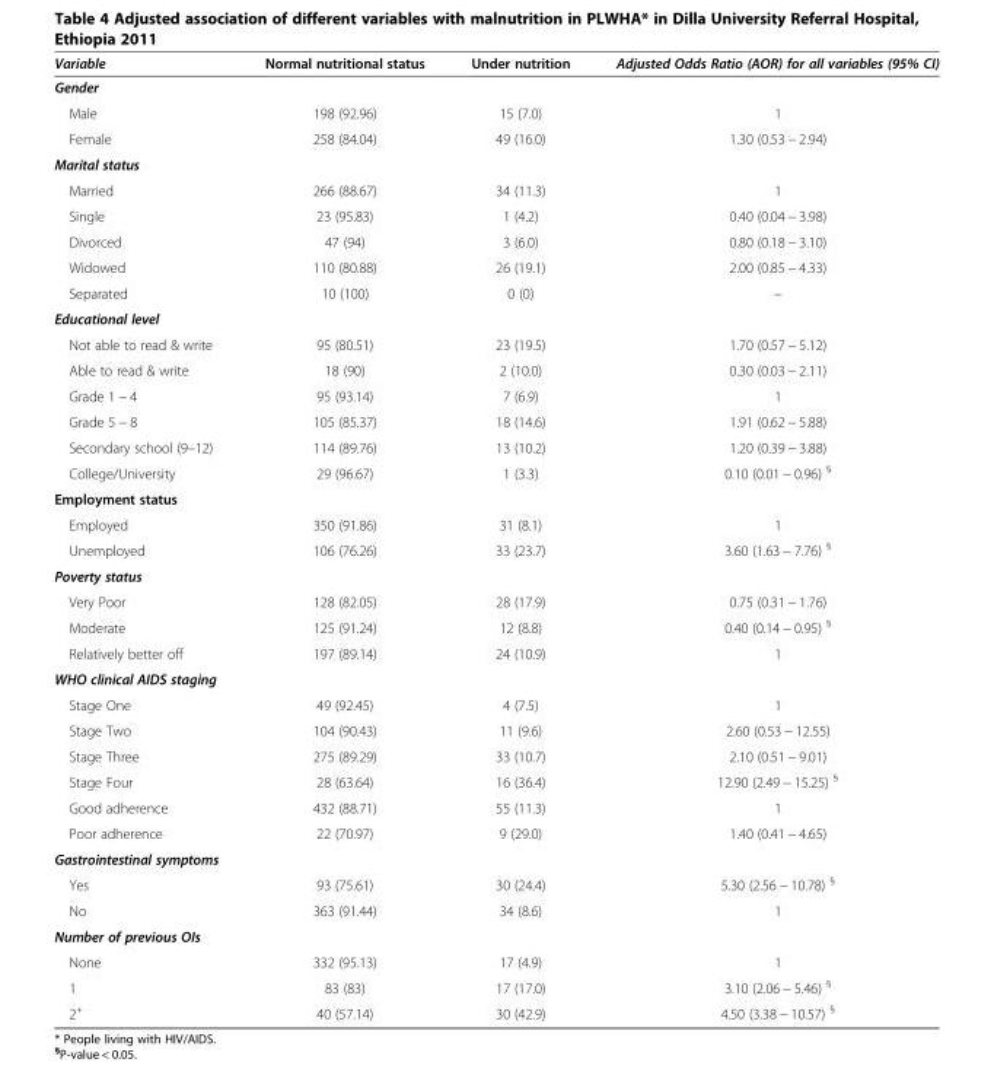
<table><thead><tr><td>Variable</td><td>Normal nutritional status</td><td>Under nutrition</td><td>Adjusted Odds Ratio (AOR) for all variables (95% CI)</td></tr></thead><tbody><tr><td colspan="4">Gender</td></tr><tr><td>Male</td><td>198 (92.96)</td><td>15 (7.0)</td><td>1</td></tr><tr><td>Female</td><td>258 (84.04)</td><td>49 (16.0)</td><td>1.30 (0.53 − 2.94)</td></tr><tr><td colspan="4">Marital status</td></tr><tr><td>Married</td><td>266 (88.67)</td><td>34 (11.3)</td><td>1</td></tr><tr><td>Single</td><td>23 (95.83)</td><td>1 (4.2)</td><td>0.40 (0.04 − 3.98)</td></tr><tr><td>Divorced</td><td>47 (94)</td><td>3 (6.0)</td><td>0.80 (0.18 − 3.10)</td></tr><tr><td>Widowed</td><td>110 (80.88)</td><td>26 (19.1)</td><td>2.00 (0.85 − 4.33)</td></tr><tr><td>Separated</td><td>10 (100)</td><td>0 (0)</td><td>−</td></tr><tr><td colspan="4">Educational level</td></tr><tr><td>Not able to read &amp; write</td><td>95 (80.51)</td><td>23 (19.5)</td><td>1.70 (0.57 − 5.12)</td></tr><tr><td>Able to read &amp; write</td><td>18 (90)</td><td>2 (10.0)</td><td>0.30 (0.03 − 2.11)</td></tr><tr><td>Grade 1 − 4</td><td>95 (93.14)</td><td>7 (6.9)</td><td>1</td></tr><tr><td>Grade 5 − 8</td><td>105 (85.37)</td><td>18 (14.6)</td><td>1.91 (0.62 − 5.88)</td></tr><tr><td>Secondary school (9–12)</td><td>114 (89.76)</td><td>13 (10.2)</td><td>1.20 (0.39 − 3.88)</td></tr><tr><td>College/University</td><td>29 (96.67)</td><td>1 (3.3)</td><td>0.10 (0.01 − 0.96) <sup>§</sup></td></tr><tr><td colspan="4">Employment status</td></tr><tr><td>Employed</td><td>350 (91.86)</td><td>31 (8.1)</td><td>1</td></tr><tr><td>Unemployed</td><td>106 (76.26)</td><td>33 (23.7)</td><td>3.60 (1.63 − 7.76) <sup>§</sup></td></tr><tr><td colspan="4">Poverty status</td></tr><tr><td>Very Poor</td><td>128 (82.05)</td><td>28 (17.9)</td><td>0.75 (0.31 − 1.76)</td></tr><tr><td>Moderate</td><td>125 (91.24)</td><td>12 (8.8)</td><td>0.40 (0.14 − 0.95) <sup>§</sup></td></tr><tr><td>Relatively better off</td><td>197 (89.14)</td><td>24 (10.9)</td><td>1</td></tr><tr><td colspan="4">WHO clinical AIDS staging</td></tr><tr><td>Stage One</td><td>49 (92.45)</td><td>4 (7.5)</td><td>1</td></tr><tr><td>Stage Two</td><td>104 (90.43)</td><td>11 (9.6)</td><td>2.60 (0.53 − 12.55)</td></tr><tr><td>Stage Three</td><td>275 (89.29)</td><td>33 (10.7)</td><td>2.10 (0.51 − 9.01)</td></tr><tr><td>Stage Four</td><td>28 (63.64)</td><td>16 (36.4)</td><td>12.90 (2.49 − 15.25) <sup>§</sup></td></tr><tr><td>Good adherence</td><td>432 (88.71)</td><td>55 (11.3)</td><td>1</td></tr><tr><td>Poor adherence</td><td>22 (70.97)</td><td>9 (29.0)</td><td>1.40 (0.41 − 4.65)</td></tr><tr><td colspan="4">Gastrointestinal symptoms</td></tr><tr><td>Yes</td><td>93 (75.61)</td><td>30 (24.4)</td><td>5.30 (2.56 − 10.78) <sup>§</sup></td></tr><tr><td>No</td><td>363 (91.44)</td><td>34 (8.6)</td><td>1</td></tr><tr><td colspan="4">Number of previous OIs</td></tr><tr><td>None</td><td>332 (95.13)</td><td>17 (4.9)</td><td>1</td></tr><tr><td>1</td><td>83 (83)</td><td>17 (17.0)</td><td>3.10 (2.06 − 5.46) <sup>§</sup></td></tr><tr><td>2<sup>+</sup></td><td>40 (57.14)</td><td>30 (42.9)</td><td>4.50 (3.38 − 10.57) <sup>§</sup></td></tr></tbody></table>